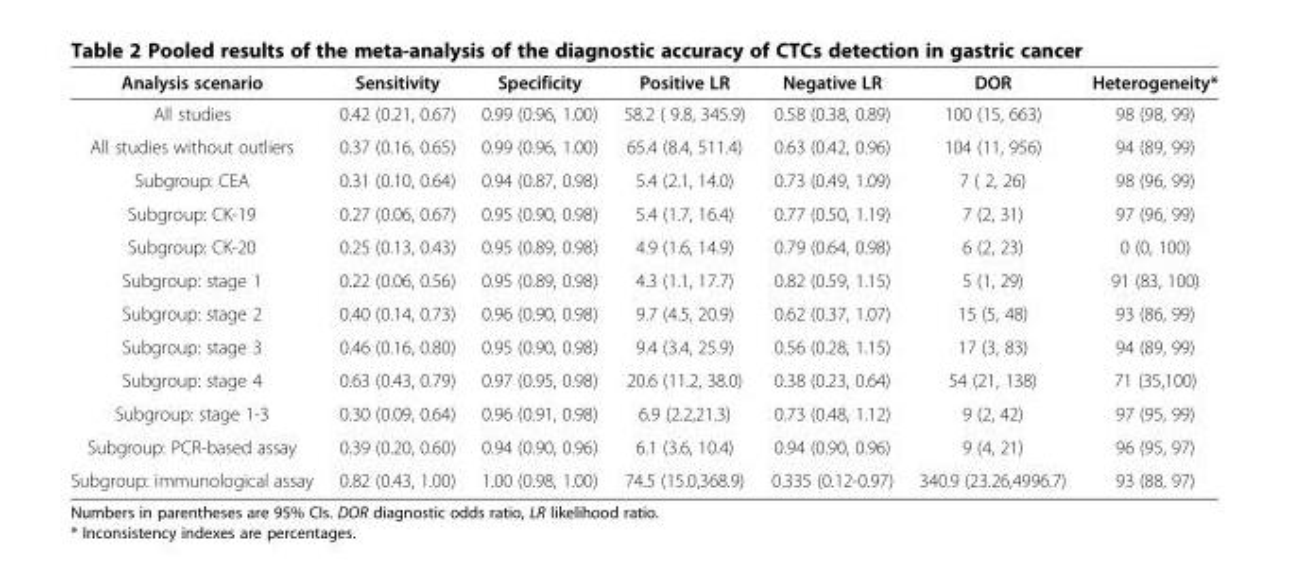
<table><thead><tr><td>Analysis scenario</td><td>Sensitivity</td><td>Specificity</td><td>Positive LR</td><td>Negative LR</td><td>DOR</td><td>Heterogeneity*</td></tr></thead><tbody><tr><td>All studies</td><td>0.42 (0.21, 0.67)</td><td>0.99 (0.96, 1.00)</td><td>58.2 ( 9.8, 345.9)</td><td>0.58 (0.38, 0.89)</td><td>100 (15, 663)</td><td>98 (98, 99)</td></tr><tr><td>All studies without outliers</td><td>0.37 (0.16, 0.65)</td><td>0.99 (0.96, 1.00)</td><td>65.4 (8.4, 511.4)</td><td>0.63 (0.42, 0.96)</td><td>104 (11, 956)</td><td>94 (89, 99)</td></tr><tr><td>Subgroup: CEA</td><td>0.31 (0.10, 0.64)</td><td>0.94 (0.87, 0.98)</td><td>5.4 (2.1, 14.0)</td><td>0.73 (0.49, 1.09)</td><td>7 ( 2, 26)</td><td>98 (96, 99)</td></tr><tr><td>Subgroup: CK-19</td><td>0.27 (0.06, 0.67)</td><td>0.95 (0.90, 0.98)</td><td>5.4 (1.7, 16.4)</td><td>0.77 (0.50, 1.19)</td><td>7 (2, 31)</td><td>97 (96, 99)</td></tr><tr><td>Subgroup: CK-20</td><td>0.25 (0.13, 0.43)</td><td>0.95 (0.89, 0.98)</td><td>4.9 (1.6, 14.9)</td><td>0.79 (0.64, 0.98)</td><td>6 (2, 23)</td><td>0 (0, 100)</td></tr><tr><td>Subgroup: stage 1</td><td>0.22 (0.06, 0.56)</td><td>0.95 (0.89, 0.98)</td><td>4.3 (1.1, 17.7)</td><td>0.82 (0.59, 1.15)</td><td>5 (1, 29)</td><td>91 (83, 100)</td></tr><tr><td>Subgroup: stage 2</td><td>0.40 (0.14, 0.73)</td><td>0.96 (0.90, 0.98)</td><td>9.7 (4.5, 20.9)</td><td>0.62 (0.37, 1.07)</td><td>15 (5, 48)</td><td>93 (86, 99)</td></tr><tr><td>Subgroup: stage 3</td><td>0.46 (0.16, 0.80)</td><td>0.95 (0.90, 0.98)</td><td>9.4 (3.4, 25.9)</td><td>0.56 (0.28, 1.15)</td><td>17 (3, 83)</td><td>94 (89, 99)</td></tr><tr><td>Subgroup: stage 4</td><td>0.63 (0.43, 0.79)</td><td>0.97 (0.95, 0.98)</td><td>20.6 (11.2, 38.0)</td><td>0.38 (0.23, 0.64)</td><td>54 (21, 138)</td><td>71 (35,100)</td></tr><tr><td>Subgroup: stage 1-3</td><td>0.30 (0.09, 0.64)</td><td>0.96 (0.91, 0.98)</td><td>6.9 (2.2,21.3)</td><td>0.73 (0.48, 1.12)</td><td>9 (2, 42)</td><td>97 (95, 99)</td></tr><tr><td>Subgroup: PCR-based assay</td><td>0.39 (0.20, 0.60)</td><td>0.94 (0.90, 0.96)</td><td>6.1 (3.6, 10.4)</td><td>0.94 (0.90, 0.96)</td><td>9 (4, 21)</td><td>96 (95, 97)</td></tr><tr><td>Subgroup: immunological assay</td><td>0.82 (0.43, 1.00)</td><td>1.00 (0.98, 1.00)</td><td>74.5 (15.0,368.9)</td><td>0.335 (0.12-0.97)</td><td>340.9 (23.26,4996.7)</td><td>93 (88, 97)</td></tr></tbody></table>